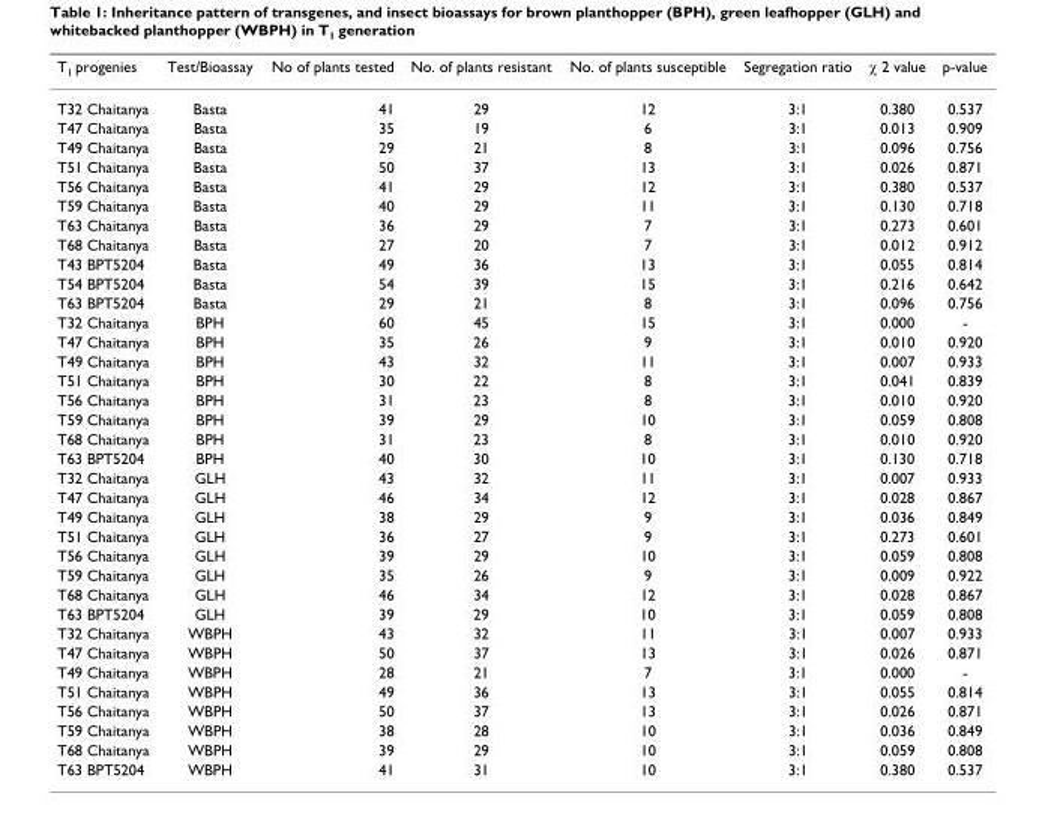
<table><thead><tr><td>T<sub>1</sub> progenies</td><td>Test/Bioassay</td><td>No of plants tested</td><td>No. of plants resistant</td><td>No. of plants susceptible</td><td>Segregation ratio</td><td>χ 2 value</td><td>p-value</td></tr></thead><tbody><tr><td>T32 Chaitanya</td><td>Basta</td><td>41</td><td>29</td><td>12</td><td>3:1</td><td>0.380</td><td>0.537</td></tr><tr><td>T47 Chaitanya</td><td>Basta</td><td>35</td><td>19</td><td>6</td><td>3:1</td><td>0.013</td><td>0.909</td></tr><tr><td>T49 Chaitanya</td><td>Basta</td><td>29</td><td>21</td><td>8</td><td>3:1</td><td>0.096</td><td>0.756</td></tr><tr><td>T51 Chaitanya</td><td>Basta</td><td>50</td><td>37</td><td>13</td><td>3:1</td><td>0.026</td><td>0.871</td></tr><tr><td>T56 Chaitanya</td><td>Basta</td><td>41</td><td>29</td><td>12</td><td>3:1</td><td>0.380</td><td>0.537</td></tr><tr><td>T59 Chaitanya</td><td>Basta</td><td>40</td><td>29</td><td>11</td><td>3:1</td><td>0.130</td><td>0.718</td></tr><tr><td>T63 Chaitanya</td><td>Basta</td><td>36</td><td>29</td><td>7</td><td>3:1</td><td>0.273</td><td>0.601</td></tr><tr><td>T68 Chaitanya</td><td>Basta</td><td>27</td><td>20</td><td>7</td><td>3:1</td><td>0.012</td><td>0.912</td></tr><tr><td>T43 BPT5204</td><td>Basta</td><td>49</td><td>36</td><td>13</td><td>3:1</td><td>0.055</td><td>0.814</td></tr><tr><td>T54 BPT5204</td><td>Basta</td><td>54</td><td>39</td><td>15</td><td>3:1</td><td>0.216</td><td>0.642</td></tr><tr><td>T63 BPT5204</td><td>Basta</td><td>29</td><td>21</td><td>8</td><td>3:1</td><td>0.096</td><td>0.756</td></tr><tr><td>T32 Chaitanya</td><td>BPH</td><td>60</td><td>45</td><td>15</td><td>3:1</td><td>0.000</td><td>-</td></tr><tr><td>T47 Chaitanya</td><td>BPH</td><td>35</td><td>26</td><td>9</td><td>3:1</td><td>0.010</td><td>0.920</td></tr><tr><td>T49 Chaitanya</td><td>BPH</td><td>43</td><td>32</td><td>11</td><td>3:1</td><td>0.007</td><td>0.933</td></tr><tr><td>T51 Chaitanya</td><td>BPH</td><td>30</td><td>22</td><td>8</td><td>3:1</td><td>0.041</td><td>0.839</td></tr><tr><td>T56 Chaitanya</td><td>BPH</td><td>31</td><td>23</td><td>8</td><td>3:1</td><td>0.010</td><td>0.920</td></tr><tr><td>T59 Chaitanya</td><td>BPH</td><td>39</td><td>29</td><td>10</td><td>3:1</td><td>0.059</td><td>0.808</td></tr><tr><td>T68 Chaitanya</td><td>BPH</td><td>31</td><td>23</td><td>8</td><td>3:1</td><td>0.010</td><td>0.920</td></tr><tr><td>T63 BPT5204</td><td>BPH</td><td>40</td><td>30</td><td>10</td><td>3:1</td><td>0.130</td><td>0.718</td></tr><tr><td>T32 Chaitanya</td><td>GLH</td><td>43</td><td>32</td><td>11</td><td>3:1</td><td>0.007</td><td>0.933</td></tr><tr><td>T47 Chaitanya</td><td>GLH</td><td>46</td><td>34</td><td>12</td><td>3:1</td><td>0.028</td><td>0.867</td></tr><tr><td>T49 Chaitanya</td><td>GLH</td><td>38</td><td>29</td><td>9</td><td>3:1</td><td>0.036</td><td>0.849</td></tr><tr><td>T51 Chaitanya</td><td>GLH</td><td>36</td><td>27</td><td>9</td><td>3:1</td><td>0.273</td><td>0.601</td></tr><tr><td>T56 Chaitanya</td><td>GLH</td><td>39</td><td>29</td><td>10</td><td>3:1</td><td>0.059</td><td>0.808</td></tr><tr><td>T59 Chaitanya</td><td>GLH</td><td>35</td><td>26</td><td>9</td><td>3:1</td><td>0.009</td><td>0.922</td></tr><tr><td>T68 Chaitanya</td><td>GLH</td><td>46</td><td>34</td><td>12</td><td>3:1</td><td>0.028</td><td>0.867</td></tr><tr><td>T63 BPT5204</td><td>GLH</td><td>39</td><td>29</td><td>10</td><td>3:1</td><td>0.059</td><td>0.808</td></tr><tr><td>T32 Chaitanya</td><td>WBPH</td><td>43</td><td>32</td><td>11</td><td>3:1</td><td>0.007</td><td>0.933</td></tr><tr><td>T47 Chaitanya</td><td>WBPH</td><td>50</td><td>37</td><td>13</td><td>3:1</td><td>0.026</td><td>0.871</td></tr><tr><td>T49 Chaitanya</td><td>WBPH</td><td>28</td><td>21</td><td>7</td><td>3:1</td><td>0.000</td><td>-</td></tr><tr><td>T51 Chaitanya</td><td>WBPH</td><td>49</td><td>36</td><td>13</td><td>3:1</td><td>0.055</td><td>0.814</td></tr><tr><td>T56 Chaitanya</td><td>WBPH</td><td>50</td><td>37</td><td>13</td><td>3:1</td><td>0.026</td><td>0.871</td></tr><tr><td>T59 Chaitanya</td><td>WBPH</td><td>38</td><td>28</td><td>10</td><td>3:1</td><td>0.036</td><td>0.849</td></tr><tr><td>T68 Chaitanya</td><td>WBPH</td><td>39</td><td>29</td><td>10</td><td>3:1</td><td>0.059</td><td>0.808</td></tr><tr><td>T63 BPT5204</td><td>WBPH</td><td>41</td><td>31</td><td>10</td><td>3:1</td><td>0.380</td><td>0.537</td></tr></tbody></table>